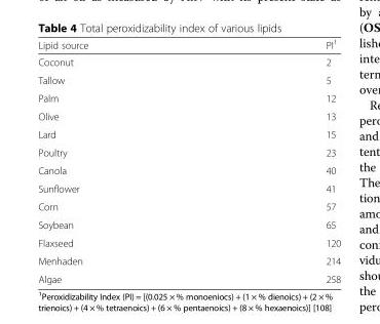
<table><thead><tr><td>Lipid source</td><td>PI<sup>1</sup></td></tr></thead><tbody><tr><td>Coconut</td><td>2</td></tr><tr><td>Tallow</td><td>5</td></tr><tr><td>Palm</td><td>12</td></tr><tr><td>Olive</td><td>13</td></tr><tr><td>Lard</td><td>15</td></tr><tr><td>Poultry</td><td>23</td></tr><tr><td>Canola</td><td>40</td></tr><tr><td>Sunflower</td><td>41</td></tr><tr><td>Corn</td><td>57</td></tr><tr><td>Soybean</td><td>65</td></tr><tr><td>Flaxseed</td><td>120</td></tr><tr><td>Menhaden</td><td>214</td></tr><tr><td>Algae</td><td>258</td></tr></tbody></table>